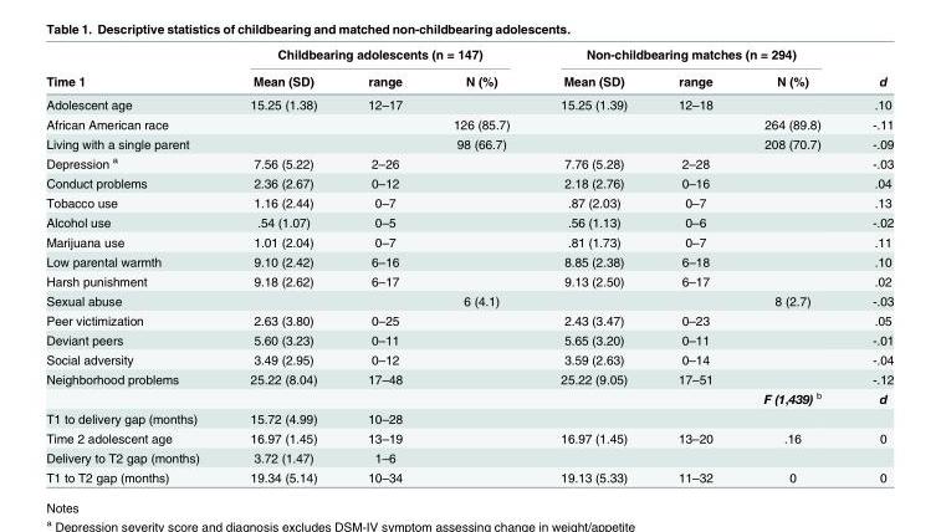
<table><thead><tr><td rowspan="2">Time 1</td><td colspan="3">Childbearing adolescents (n = 147)</td><td colspan="3">Non-childbearing matches (n = 294)</td><td rowspan="2">d</td></tr><tr><td>Mean (SD)</td><td>range</td><td>N (%)</td><td>Mean (SD)</td><td>range</td><td>N (%)</td></tr></thead><tbody><tr><td>Adolescent age</td><td>15.25 (1.38)</td><td>12–17</td><td></td><td>15.25 (1.39)</td><td>12–18</td><td></td><td>.10</td></tr><tr><td>African American race</td><td></td><td></td><td>126 (85.7)</td><td></td><td></td><td>264 (89.8)</td><td>-.11</td></tr><tr><td>Living with a single parent</td><td></td><td></td><td>98 (66.7)</td><td></td><td></td><td>208 (70.7)</td><td>-.09</td></tr><tr><td>Depression <sup>a</sup></td><td>7.56 (5.22)</td><td>2–26</td><td></td><td>7.76 (5.28)</td><td>2–28</td><td></td><td>-.03</td></tr><tr><td>Conduct problems</td><td>2.36 (2.67)</td><td>0–12</td><td></td><td>2.18 (2.76)</td><td>0–16</td><td></td><td>.04</td></tr><tr><td>Tobacco use</td><td>1.16 (2.44)</td><td>0–7</td><td></td><td>.87 (2.03)</td><td>0–7</td><td></td><td>.13</td></tr><tr><td>Alcohol use</td><td>.54 (1.07)</td><td>0–5</td><td></td><td>.56 (1.13)</td><td>0–6</td><td></td><td>-.02</td></tr><tr><td>Marijuana use</td><td>1.01 (2.04)</td><td>0–7</td><td></td><td>.81 (1.73)</td><td>0–7</td><td></td><td>.11</td></tr><tr><td>Low parental warmth</td><td>9.10 (2.42)</td><td>6–16</td><td></td><td>8.85 (2.38)</td><td>6–18</td><td></td><td>.10</td></tr><tr><td>Harsh punishment</td><td>9.18 (2.62)</td><td>6–17</td><td></td><td>9.13 (2.50)</td><td>6–17</td><td></td><td>.02</td></tr><tr><td>Sexual abuse</td><td></td><td></td><td>6 (4.1)</td><td></td><td></td><td>8 (2.7)</td><td>-.03</td></tr><tr><td>Peer victimization</td><td>2.63 (3.80)</td><td>0–25</td><td></td><td>2.43 (3.47)</td><td>0–23</td><td></td><td>.05</td></tr><tr><td>Deviant peers</td><td>5.60 (3.23)</td><td>0–11</td><td></td><td>5.65 (3.20)</td><td>0–11</td><td></td><td>-.01</td></tr><tr><td>Social adversity</td><td>3.49 (2.95)</td><td>0–12</td><td></td><td>3.59 (2.63)</td><td>0–14</td><td></td><td>-.04</td></tr><tr><td rowspan="2">Neighborhood problems</td><td>25.22 (8.04)</td><td>17–48</td><td></td><td>25.22 (9.05)</td><td>17–51</td><td></td><td>-.12</td></tr><tr><td></td><td></td><td></td><td></td><td></td><td>F (1,439) <sup>b</sup></td><td>d</td></tr><tr><td>T1 to delivery gap (months)</td><td>15.72 (4.99)</td><td>10–28</td><td></td><td></td><td></td><td></td><td></td></tr><tr><td>Time 2 adolescent age</td><td>16.97 (1.45)</td><td>13–19</td><td></td><td>16.97 (1.45)</td><td>13–20</td><td>.16</td><td>0</td></tr><tr><td>Delivery to T2 gap (months)</td><td>3.72 (1.47)</td><td>1–6</td><td></td><td></td><td></td><td></td><td></td></tr><tr><td>T1 to T2 gap (months)</td><td>19.34 (5.14)</td><td>10–34</td><td></td><td>19.13 (5.33)</td><td>11–32</td><td>0</td><td>0</td></tr></tbody></table>